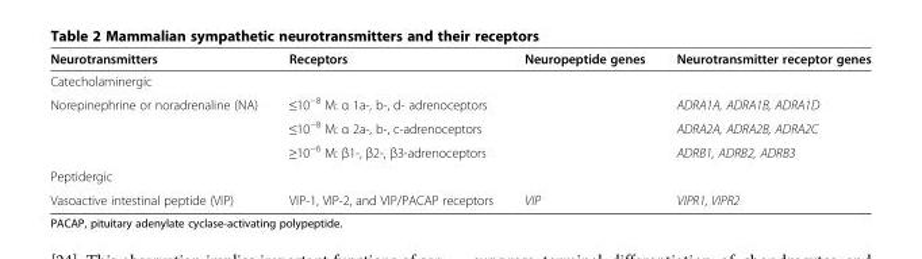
<table><thead><tr><td>Neurotransmitters</td><td>Receptors</td><td>Neuropeptide genes</td><td>Neurotransmitter receptor genes</td></tr></thead><tbody><tr><td colspan="4">Catecholaminergic</td></tr><tr><td rowspan="3">Norepinephrine or noradrenaline (NA)</td><td>≤10<sup>−8</sup> M: α 1a-, b-, d- adrenoceptors</td><td></td><td>ADRA1A, ADRA1B, ADRA1D</td></tr><tr><td>≤10<sup>−8</sup> M: α 2a-, b-, c-adrenoceptors</td><td></td><td>ADRA2A, ADRA2B, ADRA2C</td></tr><tr><td>≥10<sup>−6</sup> M: β1-, β2-, β3-adrenoceptors</td><td></td><td>ADRB1, ADRB2, ADRB3</td></tr><tr><td colspan="4">Peptidergic</td></tr><tr><td>Vasoactive intestinal peptide (VIP)</td><td>VIP-1, VIP-2, and VIP/PACAP receptors</td><td>VIP</td><td>VIPR1, VIPR2</td></tr></tbody></table>